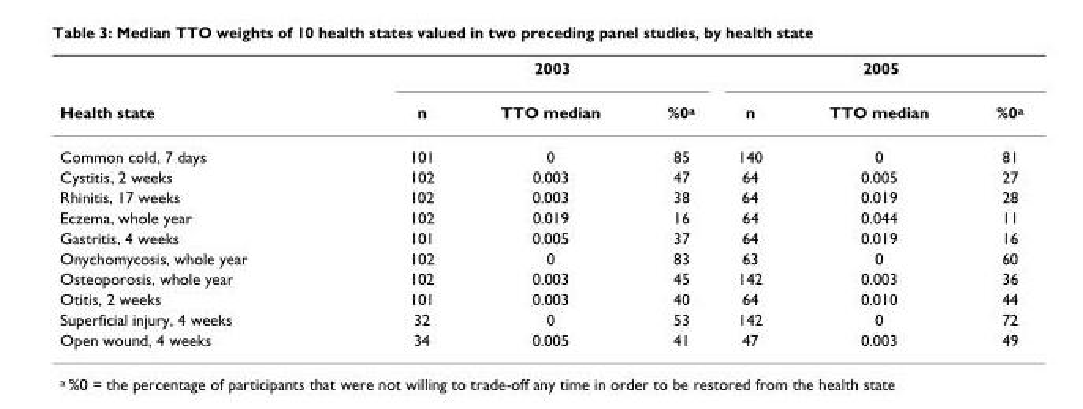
<table><thead><tr><td rowspan="2">Health state</td><td colspan="3">2003</td><td colspan="3">2005</td></tr><tr><td>n</td><td>TTO median</td><td>%0<sup>a</sup></td><td>n</td><td>TTO median</td><td>%0<sup>a</sup></td></tr></thead><tbody><tr><td>Common cold, 7 days</td><td>101</td><td>0</td><td>85</td><td>140</td><td>0</td><td>81</td></tr><tr><td>Cystitis, 2 weeks</td><td>102</td><td>0.003</td><td>47</td><td>64</td><td>0.005</td><td>27</td></tr><tr><td>Rhinitis, 17 weeks</td><td>102</td><td>0.003</td><td>38</td><td>64</td><td>0.019</td><td>28</td></tr><tr><td>Eczema, whole year</td><td>102</td><td>0.019</td><td>16</td><td>64</td><td>0.044</td><td>11</td></tr><tr><td>Gastritis, 4 weeks</td><td>101</td><td>0.005</td><td>37</td><td>64</td><td>0.019</td><td>16</td></tr><tr><td>Onychomycosis, whole year</td><td>102</td><td>0</td><td>83</td><td>63</td><td>0</td><td>60</td></tr><tr><td>Osteoporosis, whole year</td><td>102</td><td>0.003</td><td>45</td><td>142</td><td>0.003</td><td>36</td></tr><tr><td>Otitis, 2 weeks</td><td>101</td><td>0.003</td><td>40</td><td>64</td><td>0.010</td><td>44</td></tr><tr><td>Superficial injury, 4 weeks</td><td>32</td><td>0</td><td>53</td><td>142</td><td>0</td><td>72</td></tr><tr><td>Open wound, 4 weeks</td><td>34</td><td>0.005</td><td>41</td><td>47</td><td>0.003</td><td>49</td></tr></tbody></table>